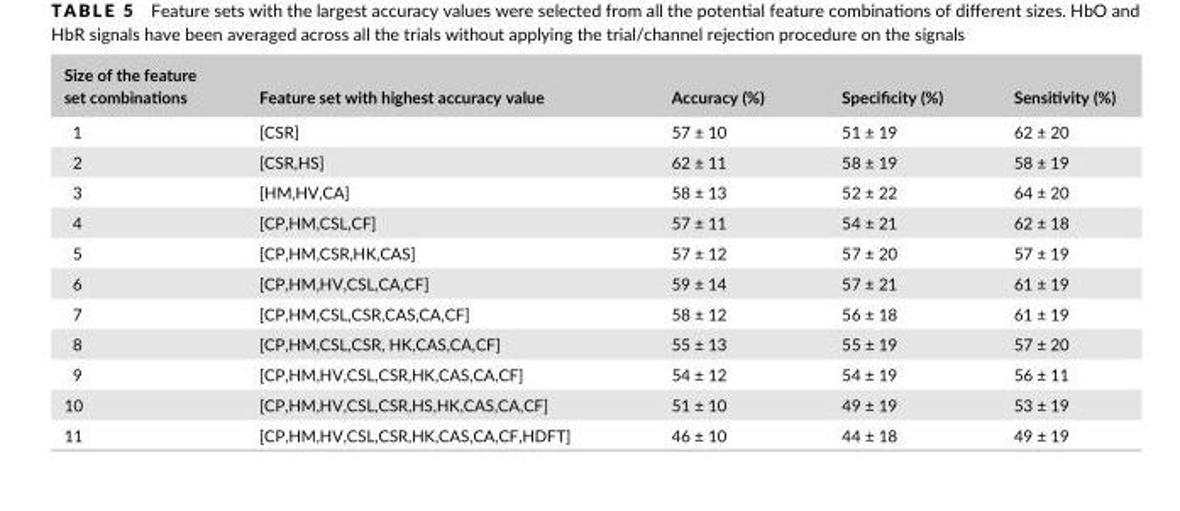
<table><thead><tr><td>Size of the feature set combinations</td><td>Feature set with highest accuracy value</td><td>Accuracy (%)</td><td>Specificity (%)</td><td>Sensitivity (%)</td></tr></thead><tbody><tr><td>1</td><td>[CSR]</td><td>57 ± 10</td><td>51 ± 19</td><td>62 ± 20</td></tr><tr><td>2</td><td>[CSR,HS]</td><td>62 ± 11</td><td>58 ± 19</td><td>58 ± 19</td></tr><tr><td>3</td><td>[HM,HV,CA]</td><td>58 ± 13</td><td>52 ± 22</td><td>64 ± 20</td></tr><tr><td>4</td><td>[CP,HM,CSL,CF]</td><td>57 ± 11</td><td>54 ± 21</td><td>62 ± 18</td></tr><tr><td>5</td><td>[CP,HM,CSR,HK,CAS]</td><td>57 ± 12</td><td>57 ± 20</td><td>57 ± 19</td></tr><tr><td>6</td><td>[CP,HM,HV,CSL,CA,CF]</td><td>59 ± 14</td><td>57 ± 21</td><td>61 ± 19</td></tr><tr><td>7</td><td>[CP,HM,CSL,CSR,CAS,CA,CF]</td><td>58 ± 12</td><td>56 ± 18</td><td>61 ± 19</td></tr><tr><td>8</td><td>[CP,HM,CSL,CSR, HK,CAS,CA,CF]</td><td>55 ± 13</td><td>55 ± 19</td><td>57 ± 20</td></tr><tr><td>9</td><td>[CP,HM,HV,CSL,CSR,HK,CAS,CA,CF]</td><td>54 ± 12</td><td>54 ± 19</td><td>56 ± 11</td></tr><tr><td>10</td><td>[CP,HM,HV,CSL,CSR,HS,HK,CAS,CA,CF]</td><td>51 ± 10</td><td>49 ± 19</td><td>53 ± 19</td></tr><tr><td>11</td><td>[CP,HM,HV,CSL,CSR,HK,CAS,CA,CF,HDFT]</td><td>46 ± 10</td><td>44 ± 18</td><td>49 ± 19</td></tr></tbody></table>